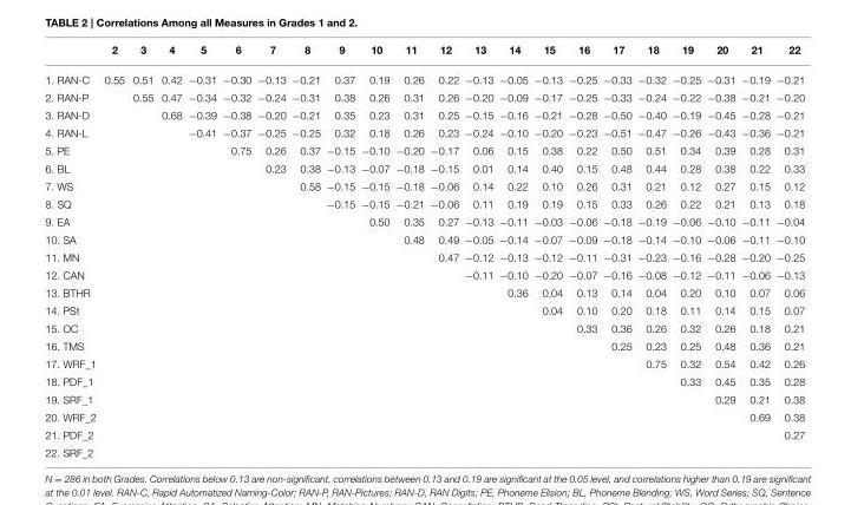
<table><thead><tr><td></td><td>2</td><td>3</td><td>4</td><td>5</td><td>6</td><td>7</td><td>8</td><td>9</td><td>10</td><td>11</td><td>12</td><td>13</td><td>14</td><td>15</td><td>16</td><td>17</td><td>18</td><td>19</td><td>20</td><td>21</td><td>22</td></tr></thead><tbody><tr><td>1. RAN-C</td><td>0.55</td><td>0.51</td><td>0.42</td><td>−0.31</td><td>−0.30</td><td>−0.13</td><td>−0.21</td><td>0.37</td><td>0.19</td><td>0.26</td><td>0.22</td><td>−0.13</td><td>−0.05</td><td>−0.13</td><td>−0.25</td><td>−0.33</td><td>−0.32</td><td>−0.25</td><td>−0.31</td><td>−0.19</td><td>−0.21</td></tr><tr><td>2. RAN-P</td><td></td><td>0.55</td><td>0.47</td><td>−0.34</td><td>−0.32</td><td>−0.24</td><td>−0.31</td><td>0.38</td><td>0.26</td><td>0.31</td><td>0.26</td><td>−0.20</td><td>−0.09</td><td>−0.17</td><td>−0.25</td><td>−0.33</td><td>−0.24</td><td>−0.22</td><td>−0.38</td><td>−0.21</td><td>−0.20</td></tr><tr><td>3. RAN-D</td><td></td><td></td><td>0.68</td><td>−0.39</td><td>−0.38</td><td>−0.20</td><td>−0.21</td><td>0.35</td><td>0.23</td><td>0.31</td><td>0.25</td><td>−0.15</td><td>−0.16</td><td>−0.21</td><td>−0.28</td><td>−0.50</td><td>−0.40</td><td>−0.19</td><td>−0.45</td><td>−0.28</td><td>−0.21</td></tr><tr><td>4. RAN-L</td><td></td><td></td><td></td><td>−0.41</td><td>−0.37</td><td>−0.25</td><td>−0.25</td><td>0.32</td><td>0.18</td><td>0.26</td><td>0.23</td><td>−0.24</td><td>−0.10</td><td>−0.20</td><td>−0.23</td><td>−0.51</td><td>−0.47</td><td>−0.26</td><td>−0.43</td><td>−0.36</td><td>−0.21</td></tr><tr><td>5. PE</td><td></td><td></td><td></td><td></td><td>0.75</td><td>0.26</td><td>0.37</td><td>−0.15</td><td>−0.10</td><td>−0.20</td><td>−0.17</td><td>0.06</td><td>0.15</td><td>0.38</td><td>0.22</td><td>0.50</td><td>0.51</td><td>0.34</td><td>0.39</td><td>0.28</td><td>0.31</td></tr><tr><td>6. BL</td><td></td><td></td><td></td><td></td><td></td><td>0.23</td><td>0.38</td><td>−0.13</td><td>−0.07</td><td>−0.18</td><td>−0.15</td><td>0.01</td><td>0.14</td><td>0.40</td><td>0.15</td><td>0.48</td><td>0.44</td><td>0.28</td><td>0.38</td><td>0.22</td><td>0.33</td></tr><tr><td>7. WS</td><td></td><td></td><td></td><td></td><td></td><td></td><td>0.58</td><td>−0.15</td><td>−0.15</td><td>−0.18</td><td>−0.06</td><td>0.14</td><td>0.22</td><td>0.10</td><td>0.26</td><td>0.31</td><td>0.21</td><td>0.12</td><td>0.27</td><td>0.15</td><td>0.12</td></tr><tr><td>8. SQ</td><td></td><td></td><td></td><td></td><td></td><td></td><td></td><td>−0.15</td><td>−0.15</td><td>−0.21</td><td>−0.06</td><td>0.11</td><td>0.19</td><td>0.19</td><td>0.15</td><td>0.33</td><td>0.26</td><td>0.22</td><td>0.21</td><td>0.13</td><td>0.18</td></tr><tr><td>9. EA</td><td></td><td></td><td></td><td></td><td></td><td></td><td></td><td></td><td>0.50</td><td>0.35</td><td>0.27</td><td>−0.13</td><td>−0.11</td><td>−0.03</td><td>−0.06</td><td>−0.18</td><td>−0.19</td><td>−0.06</td><td>−0.10</td><td>−0.11</td><td>−0.04</td></tr><tr><td>10. SA</td><td></td><td></td><td></td><td></td><td></td><td></td><td></td><td></td><td></td><td>0.48</td><td>0.49</td><td>−0.05</td><td>−0.14</td><td>−0.07</td><td>−0.09</td><td>−0.18</td><td>−0.14</td><td>−0.10</td><td>−0.06</td><td>−0.11</td><td>−0.10</td></tr><tr><td>11. MN</td><td></td><td></td><td></td><td></td><td></td><td></td><td></td><td></td><td></td><td></td><td>0.47</td><td>−0.12</td><td>−0.13</td><td>−0.12</td><td>−0.11</td><td>−0.31</td><td>−0.23</td><td>−0.16</td><td>−0.28</td><td>−0.20</td><td>−0.25</td></tr><tr><td>12. CAN</td><td></td><td></td><td></td><td></td><td></td><td></td><td></td><td></td><td></td><td></td><td></td><td>−0.11</td><td>−0.10</td><td>−0.20</td><td>−0.07</td><td>−0.16</td><td>−0.08</td><td>−0.12</td><td>−0.11</td><td>−0.06</td><td>−0.13</td></tr><tr><td>13. BTHR</td><td></td><td></td><td></td><td></td><td></td><td></td><td></td><td></td><td></td><td></td><td></td><td></td><td>0.36</td><td>0.04</td><td>0.13</td><td>0.14</td><td>0.04</td><td>0.20</td><td>0.10</td><td>0.07</td><td>0.06</td></tr><tr><td>14. PSt</td><td></td><td></td><td></td><td></td><td></td><td></td><td></td><td></td><td></td><td></td><td></td><td></td><td></td><td>0.04</td><td>0.10</td><td>0.20</td><td>0.18</td><td>0.11</td><td>0.14</td><td>0.15</td><td>0.07</td></tr><tr><td>15. OC</td><td></td><td></td><td></td><td></td><td></td><td></td><td></td><td></td><td></td><td></td><td></td><td></td><td></td><td></td><td>0.33</td><td>0.36</td><td>0.26</td><td>0.32</td><td>0.26</td><td>0.18</td><td>0.21</td></tr><tr><td>16. TMS</td><td></td><td></td><td></td><td></td><td></td><td></td><td></td><td></td><td></td><td></td><td></td><td></td><td></td><td></td><td></td><td>0.25</td><td>0.23</td><td>0.25</td><td>0.48</td><td>0.36</td><td>0.21</td></tr><tr><td>17. WRF_1</td><td></td><td></td><td></td><td></td><td></td><td></td><td></td><td></td><td></td><td></td><td></td><td></td><td></td><td></td><td></td><td></td><td>0.75</td><td>0.32</td><td>0.54</td><td>0.42</td><td>0.26</td></tr><tr><td>18. PDF_1</td><td></td><td></td><td></td><td></td><td></td><td></td><td></td><td></td><td></td><td></td><td></td><td></td><td></td><td></td><td></td><td></td><td></td><td>0.33</td><td>0.45</td><td>0.35</td><td>0.28</td></tr><tr><td>19. SRF_1</td><td></td><td></td><td></td><td></td><td></td><td></td><td></td><td></td><td></td><td></td><td></td><td></td><td></td><td></td><td></td><td></td><td></td><td></td><td>0.29</td><td>0.21</td><td>0.38</td></tr><tr><td>20. WRF_2</td><td></td><td></td><td></td><td></td><td></td><td></td><td></td><td></td><td></td><td></td><td></td><td></td><td></td><td></td><td></td><td></td><td></td><td></td><td></td><td>0.69</td><td>0.38</td></tr><tr><td>21. PDF_2</td><td></td><td></td><td></td><td></td><td></td><td></td><td></td><td></td><td></td><td></td><td></td><td></td><td></td><td></td><td></td><td></td><td></td><td></td><td></td><td></td><td>0.27</td></tr><tr><td>22. SRF_2</td><td></td><td></td><td></td><td></td><td></td><td></td><td></td><td></td><td></td><td></td><td></td><td></td><td></td><td></td><td></td><td></td><td></td><td></td><td></td><td></td><td></td></tr></tbody></table>